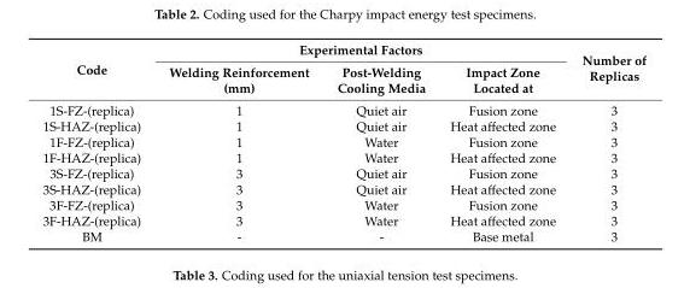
<table><thead><tr><td rowspan="2">Code</td><td colspan="3">Experimental Factors</td><td rowspan="2">Number of Replicas</td></tr><tr><td>Welding Reinforcement (mm)</td><td>Post-Welding Cooling Media</td><td>Impact Zone Located at</td></tr></thead><tbody><tr><td>1S-FZ-(replica)</td><td>1</td><td>Quiet air</td><td>Fusion zone</td><td>3</td></tr><tr><td>1S-HAZ-(replica)</td><td>1</td><td>Quiet air</td><td>Heat affected zone</td><td>3</td></tr><tr><td>1F-FZ-(replica)</td><td>1</td><td>Water</td><td>Fusion zone</td><td>3</td></tr><tr><td>1F-HAZ-(replica)</td><td>1</td><td>Water</td><td>Heat affected zone</td><td>3</td></tr><tr><td>3S-FZ-(replica)</td><td>3</td><td>Quiet air</td><td>Fusion zone</td><td>3</td></tr><tr><td>3S-HAZ-(replica)</td><td>3</td><td>Quiet air</td><td>Heat affected zone</td><td>3</td></tr><tr><td>3F-FZ-(replica)</td><td>3</td><td>Water</td><td>Fusion zone</td><td>3</td></tr><tr><td>3F-HAZ-(replica)</td><td>3</td><td>Water</td><td>Heat affected zone</td><td>3</td></tr><tr><td>BM</td><td>-</td><td>-</td><td>Base metal</td><td>3</td></tr></tbody></table>